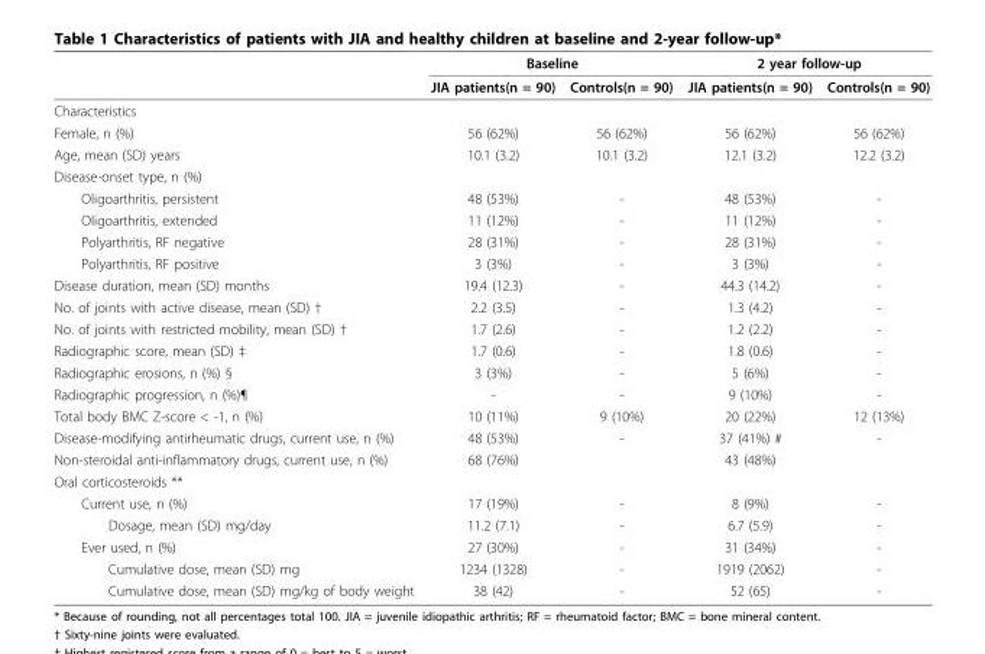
<table><thead><tr><td rowspan="2"></td><td colspan="2">Baseline</td><td colspan="2">2 year follow-up</td></tr><tr><td>JIA patients(n = 90)</td><td>Controls(n = 90)</td><td>JIA patients(n = 90)</td><td>Controls(n = 90)</td></tr></thead><tbody><tr><td colspan="5">Characteristics</td></tr><tr><td>Female, n (%)</td><td>56 (62%)</td><td>56 (62%)</td><td>56 (62%)</td><td>56 (62%)</td></tr><tr><td>Age, mean (SD) years</td><td>10.1 (3.2)</td><td>10.1 (3.2)</td><td>12.1 (3.2)</td><td>12.2 (3.2)</td></tr><tr><td colspan="5">Disease-onset type, n (%)</td></tr><tr><td>Oligoarthritis, persistent</td><td>48 (53%)</td><td>-</td><td>48 (53%)</td><td>-</td></tr><tr><td>Oligoarthritis, extended</td><td>11 (12%)</td><td>-</td><td>11 (12%)</td><td>-</td></tr><tr><td>Polyarthritis, RF negative</td><td>28 (31%)</td><td>-</td><td>28 (31%)</td><td>-</td></tr><tr><td>Polyarthritis, RF positive</td><td>3 (3%)</td><td>-</td><td>3 (3%)</td><td>-</td></tr><tr><td>Disease duration, mean (SD) months</td><td>19.4 (12.3)</td><td>-</td><td>44.3 (14.2)</td><td>-</td></tr><tr><td>No. of joints with active disease, mean (SD) †</td><td>2.2 (3.5)</td><td>-</td><td>1.3 (4.2)</td><td>-</td></tr><tr><td>No. of joints with restricted mobility, mean (SD) †</td><td>1.7 (2.6)</td><td>-</td><td>1.2 (2.2)</td><td>-</td></tr><tr><td>Radiographic score, mean (SD) ‡</td><td>1.7 (0.6)</td><td>-</td><td>1.8 (0.6)</td><td>-</td></tr><tr><td>Radiographic erosions, n (%) §</td><td>3 (3%)</td><td>-</td><td>5 (6%)</td><td>-</td></tr><tr><td>Radiographic progression, n (%)¶</td><td>-</td><td>-</td><td>9 (10%)</td><td>-</td></tr><tr><td>Total body BMC Z-score &lt; -1, n (%)</td><td>10 (11%)</td><td>9 (10%)</td><td>20 (22%)</td><td>12 (13%)</td></tr><tr><td>Disease-modifying antirheumatic drugs, current use, n (%)</td><td>48 (53%)</td><td>-</td><td>37 (41%) #</td><td>-</td></tr><tr><td>Non-steroidal anti-inflammatory drugs, current use, n (%)</td><td>68 (76%)</td><td></td><td>43 (48%)</td><td></td></tr><tr><td colspan="5">Oral corticosteroids **</td></tr><tr><td>Current use, n (%)</td><td>17 (19%)</td><td>-</td><td>8 (9%)</td><td>-</td></tr><tr><td>Dosage, mean (SD) mg/day</td><td>11.2 (7.1)</td><td>-</td><td>6.7 (5.9)</td><td>-</td></tr><tr><td>Ever used, n (%)</td><td>27 (30%)</td><td>-</td><td>31 (34%)</td><td>-</td></tr><tr><td>Cumulative dose, mean (SD) mg</td><td>1234 (1328)</td><td>-</td><td>1919 (2062)</td><td>-</td></tr><tr><td>Cumulative dose, mean (SD) mg/kg of body weight</td><td>38 (42)</td><td>-</td><td>52 (65)</td><td>-</td></tr></tbody></table>